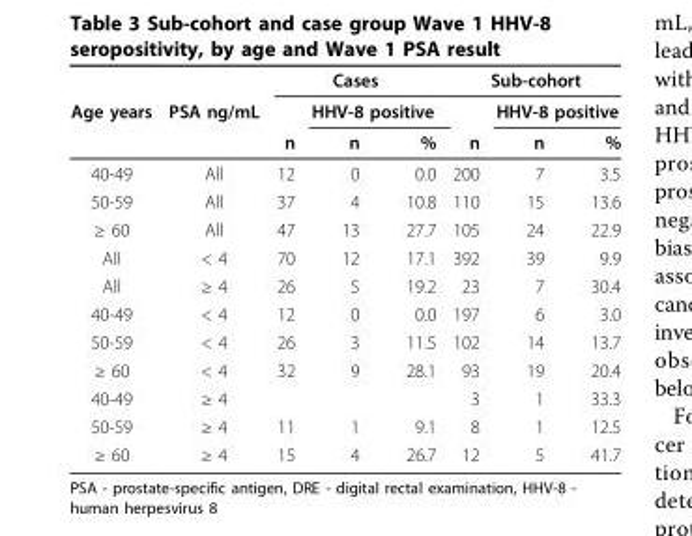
<table><thead><tr><td rowspan="3">Age years</td><td rowspan="3">PSA ng/mL</td><td colspan="3">Cases</td><td colspan="3">Sub-cohort</td></tr><tr><td rowspan="2">n</td><td colspan="2">HHV-8 positive</td><td rowspan="2">n</td><td colspan="2">HHV-8 positive</td></tr><tr><td>n</td><td>%</td><td>n</td><td>%</td></tr></thead><tbody><tr><td>40-49</td><td>All</td><td>12</td><td>0</td><td>0.0</td><td>200</td><td>7</td><td>3.5</td></tr><tr><td>50-59</td><td>All</td><td>37</td><td>4</td><td>10.8</td><td>110</td><td>15</td><td>13.6</td></tr><tr><td>≥ 60</td><td>All</td><td>47</td><td>13</td><td>27.7</td><td>105</td><td>24</td><td>22.9</td></tr><tr><td>All</td><td>&lt; 4</td><td>70</td><td>12</td><td>17.1</td><td>392</td><td>39</td><td>9.9</td></tr><tr><td>All</td><td>≥ 4</td><td>26</td><td>5</td><td>19.2</td><td>23</td><td>7</td><td>30.4</td></tr><tr><td>40-49</td><td>&lt; 4</td><td>12</td><td>0</td><td>0.0</td><td>197</td><td>6</td><td>3.0</td></tr><tr><td>50-59</td><td>&lt; 4</td><td>26</td><td>3</td><td>11.5</td><td>102</td><td>14</td><td>13.7</td></tr><tr><td>≥ 60</td><td>&lt; 4</td><td>32</td><td>9</td><td>28.1</td><td>93</td><td>19</td><td>20.4</td></tr><tr><td>40-49</td><td>≥ 4</td><td></td><td></td><td></td><td>3</td><td>1</td><td>33.3</td></tr><tr><td>50-59</td><td>≥ 4</td><td>11</td><td>1</td><td>9.1</td><td>8</td><td>1</td><td>12.5</td></tr><tr><td>≥ 60</td><td>≥ 4</td><td>15</td><td>4</td><td>26.7</td><td>12</td><td>5</td><td>41.7</td></tr></tbody></table>